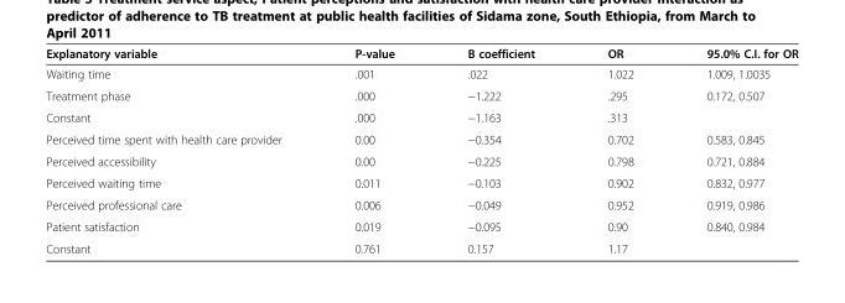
<table><thead><tr><td>Explanatory variable</td><td>P-value</td><td>B coefficient</td><td>OR</td><td>95.0% C.I. for OR</td></tr></thead><tbody><tr><td>Waiting time</td><td>.001</td><td>.022</td><td>1.022</td><td>1.009, 1.0035</td></tr><tr><td>Treatment phase</td><td>.000</td><td>−1.222</td><td>.295</td><td>0.172, 0.507</td></tr><tr><td>Constant</td><td>.000</td><td>−1.163</td><td>.313</td><td></td></tr><tr><td>Perceived time spent with health care provider</td><td>0.00</td><td>−0.354</td><td>0.702</td><td>0.583, 0.845</td></tr><tr><td>Perceived accessibility</td><td>0.00</td><td>−0.225</td><td>0.798</td><td>0.721, 0.884</td></tr><tr><td>Perceived waiting time</td><td>0.011</td><td>−0.103</td><td>0.902</td><td>0.832, 0.977</td></tr><tr><td>Perceived professional care</td><td>0.006</td><td>−0.049</td><td>0.952</td><td>0.919, 0.986</td></tr><tr><td>Patient satisfaction</td><td>0.019</td><td>−0.095</td><td>0.90</td><td>0.840, 0.984</td></tr><tr><td>Constant</td><td>0.761</td><td>0.157</td><td>1.17</td><td></td></tr></tbody></table>